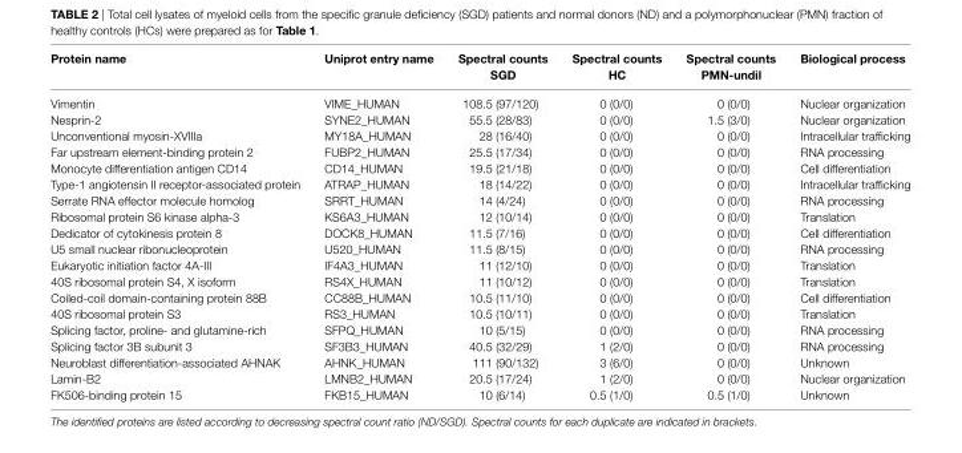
<table><thead><tr><td>Protein name</td><td>Uniprot entry name</td><td>spectral counts sgD</td><td>spectral counts hc</td><td>spectral counts PMn-undil</td><td>Biological process</td></tr></thead><tbody><tr><td>Vimentin</td><td>VIME_HUMAN</td><td>108.5 (97/120)</td><td>0 (0/0)</td><td>0 (0/0)</td><td>Nuclear organization</td></tr><tr><td>Nesprin-2</td><td>SYNE2_HUMAN</td><td>55.5 (28/83)</td><td>0 (0/0)</td><td>1.5 (3/0)</td><td>Nuclear organization</td></tr><tr><td>Unconventional myosin-XVIIIa</td><td>MY18A_HUMAN</td><td>28 (16/40)</td><td>0 (0/0)</td><td>0 (0/0)</td><td>Intracellular trafficking</td></tr><tr><td>Far upstream element-binding protein 2</td><td>FUBP2_HUMAN</td><td>25.5 (17/34)</td><td>0 (0/0)</td><td>0 (0/0)</td><td>RNA processing</td></tr><tr><td>Monocyte differentiation antigen CD14</td><td>CD14_HUMAN</td><td>19.5 (21/18)</td><td>0 (0/0)</td><td>0 (0/0)</td><td>Cell differentiation</td></tr><tr><td>Type-1 angiotensin II receptor-associated protein</td><td>ATRAP_HUMAN</td><td>18 (14/22)</td><td>0 (0/0)</td><td>0 (0/0)</td><td>Intracellular trafficking</td></tr><tr><td>Serrate RNA effector molecule homolog</td><td>SRRT_HUMAN</td><td>14 (4/24)</td><td>0 (0/0)</td><td>0 (0/0)</td><td>RNA processing</td></tr><tr><td>Ribosomal protein S6 kinase alpha-3</td><td>KS6A3_HUMAN</td><td>12 (10/14)</td><td>0 (0/0)</td><td>0 (0/0)</td><td>Translation</td></tr><tr><td>Dedicator of cytokinesis protein 8</td><td>DOCK8_HUMAN</td><td>11.5 (7/16)</td><td>0 (0/0)</td><td>0 (0/0)</td><td>Cell differentiation</td></tr><tr><td>U5 small nuclear ribonucleoprotein</td><td>U520_HUMAN</td><td>11.5 (8/15)</td><td>0 (0/0)</td><td>0 (0/0)</td><td>RNA processing</td></tr><tr><td>Eukaryotic initiation factor 4A-III</td><td>IF4A3_HUMAN</td><td>11 (12/10)</td><td>0 (0/0)</td><td>0 (0/0)</td><td>Translation</td></tr><tr><td>40S ribosomal protein S4, X isoform</td><td>RS4X_HUMAN</td><td>11 (10/12)</td><td>0 (0/0)</td><td>0 (0/0)</td><td>Translation</td></tr><tr><td>Coiled-coil domain-containing protein 88B</td><td>CC88B_HUMAN</td><td>10.5 (11/10)</td><td>0 (0/0)</td><td>0 (0/0)</td><td>Cell differentiation</td></tr><tr><td>40S ribosomal protein S3</td><td>RS3_HUMAN</td><td>10.5 (10/11)</td><td>0 (0/0)</td><td>0 (0/0)</td><td>Translation</td></tr><tr><td>Splicing factor, proline- and glutamine-rich</td><td>SFPQ_HUMAN</td><td>10 (5/15)</td><td>0 (0/0)</td><td>0 (0/0)</td><td>RNA processing</td></tr><tr><td>Splicing factor 3B subunit 3</td><td>SF3B3_HUMAN</td><td>40.5 (32/29)</td><td>1 (2/0)</td><td>0 (0/0)</td><td>RNA processing</td></tr><tr><td>Neuroblast differentiation-associated AHNAK</td><td>AHNK_HUMAN</td><td>111 (90/132)</td><td>3 (6/0)</td><td>0 (0/0)</td><td>Unknown</td></tr><tr><td>Lamin-B2</td><td>LMNB2_HUMAN</td><td>20.5 (17/24)</td><td>1 (2/0)</td><td>0 (0/0)</td><td>Nuclear organization</td></tr><tr><td>FK506-binding protein 15</td><td>FKB15_HUMAN</td><td>10 (6/14)</td><td>0.5 (1/0)</td><td>0.5 (1/0)</td><td>Unknown</td></tr></tbody></table>